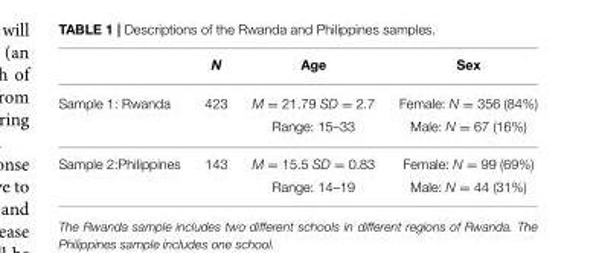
<table><thead><tr><td></td><td>N</td><td>Age</td><td>Sex</td></tr></thead><tbody><tr><td rowspan="2">Sample 1: Rwanda</td><td>423</td><td>M = 21.79 SD = 2.7</td><td>Female: N = 356 (84%)</td></tr><tr><td></td><td>Range: 15–33</td><td>Male: N = 67 (16%)</td></tr><tr><td rowspan="2">Sample 2:Philippines</td><td>143</td><td>M = 15.5 SD = 0.83</td><td>Female: N = 99 (69%)</td></tr><tr><td></td><td>Range: 14–19</td><td>Male: N = 44 (31%)</td></tr></tbody></table>